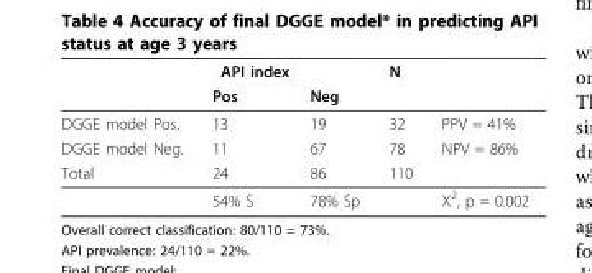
<table><thead><tr><td rowspan="2"></td><td rowspan="2">API index Pos</td><td rowspan="2">Neg</td><td rowspan="2">N</td><td rowspan="2"></td></tr><tr></tr></thead><tbody><tr><td>DGGE model Pos.</td><td>13</td><td>19</td><td>32</td><td>PPV = 41%</td></tr><tr><td>DGGE model Neg.</td><td>11</td><td>67</td><td>78</td><td>NPV = 86%</td></tr><tr><td rowspan="2">Total</td><td>24</td><td>86</td><td>110</td><td></td></tr><tr><td>54% S</td><td>78% Sp</td><td></td><td>X<sup>2</sup>, p = 0.002</td></tr></tbody></table>